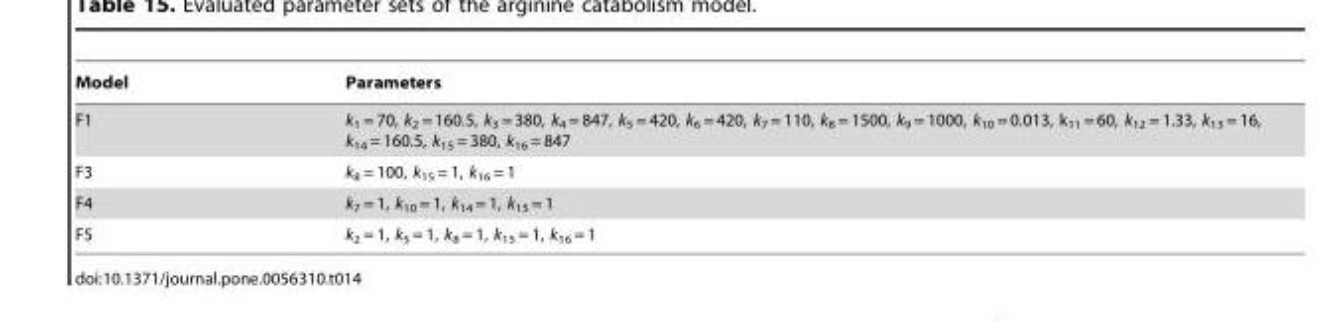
<table><thead><tr><td>Model</td><td>Parameters</td></tr></thead><tbody><tr><td>F1</td><td>k1 = 70, k2 = 160.5, k3 = 380, k4 = 847, k5 = 420, k6 = 420, k7 = 110, k8 = 1500, k9 = 1000, k10 = 0.013, k11 = 60, k12 = 1.33, k13 = 16, k14 = 160.5, k15 = 380, k16 = 847</td></tr><tr><td>F3</td><td>k<sub>8</sub> = 100, k<sub>15</sub> = 1, k<sub>16</sub> = 1</td></tr><tr><td>F4</td><td>k<sub>7</sub> = 1, k<sub>10</sub> = 1, k<sub>14</sub> = 1, k<sub>15</sub> = 1</td></tr><tr><td>F5</td><td>k<sub>2</sub> = 1, k<sub>5</sub> = 1, k<sub>8</sub> = 1, k<sub>15</sub> = 1, k<sub>16</sub> = 1</td></tr></tbody></table>